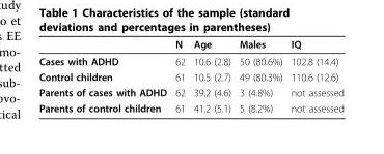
<table><thead><tr><td></td><td>N</td><td>Age</td><td>Males</td><td>IQ</td></tr></thead><tbody><tr><td>Cases with ADHD</td><td>62</td><td>10.6 (2.8)</td><td>50 (80.6%)</td><td>102.8 (14.4)</td></tr><tr><td>Control children</td><td>61</td><td>10.5 (2.7)</td><td>49 (80.3%)</td><td>110.6 (12.6)</td></tr><tr><td>Parents of cases with ADHD</td><td>62</td><td>39.2 (4.6)</td><td>3 (4.8%)</td><td>not assessed</td></tr><tr><td>Parents of control children</td><td>61</td><td>41.2 (5.1)</td><td>5 (8.2%)</td><td>not assessed</td></tr></tbody></table>